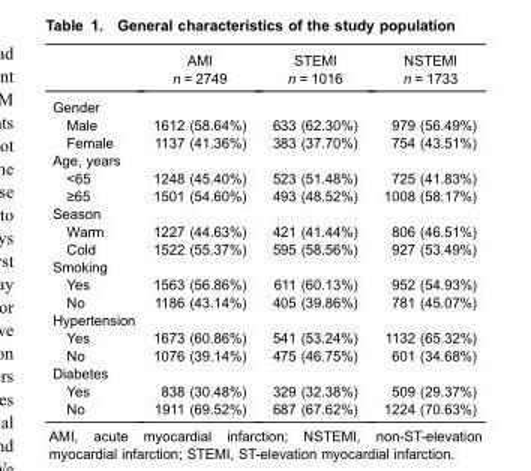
<table><thead><tr><td></td><td>AMI n = 2749</td><td>STEMI n = 1016</td><td>NSTEMI n = 1733</td></tr></thead><tbody><tr><td colspan="4">Gender</td></tr><tr><td>Male</td><td>1612 (58.64%)</td><td>633 (62.30%)</td><td>979 (56.49%)</td></tr><tr><td>Female</td><td>1137 (41.36%)</td><td>383 (37.70%)</td><td>754 (43.51%)</td></tr><tr><td colspan="4">Age, years</td></tr><tr><td>&lt;65</td><td>1248 (45.40%)</td><td>523 (51.48%)</td><td>725 (41.83%)</td></tr><tr><td>≥65</td><td>1501 (54.60%)</td><td>493 (48.52%)</td><td>1008 (58.17%)</td></tr><tr><td colspan="4">Season</td></tr><tr><td>Warm</td><td>1227 (44.63%)</td><td>421 (41.44%)</td><td>806 (46.51%)</td></tr><tr><td>Cold</td><td>1522 (55.37%)</td><td>595 (58.56%)</td><td>927 (53.49%)</td></tr><tr><td colspan="4">Smoking</td></tr><tr><td>Yes</td><td>1563 (56.86%)</td><td>611 (60.13%)</td><td>952 (54.93%)</td></tr><tr><td>No</td><td>1186 (43.14%)</td><td>405 (39.86%)</td><td>781 (45.07%)</td></tr><tr><td colspan="4">Hypertension</td></tr><tr><td>Yes</td><td>1673 (60.86%)</td><td>541 (53.24%)</td><td>1132 (65.32%)</td></tr><tr><td>No</td><td>1076 (39.14%)</td><td>475 (46.75%)</td><td>601 (34.68%)</td></tr><tr><td colspan="4">Diabetes</td></tr><tr><td>Yes</td><td>838 (30.48%)</td><td>329 (32.38%)</td><td>509 (29.37%)</td></tr><tr><td>No</td><td>1911 (69.52%)</td><td>687 (67.62%)</td><td>1224 (70.63%)</td></tr></tbody></table>